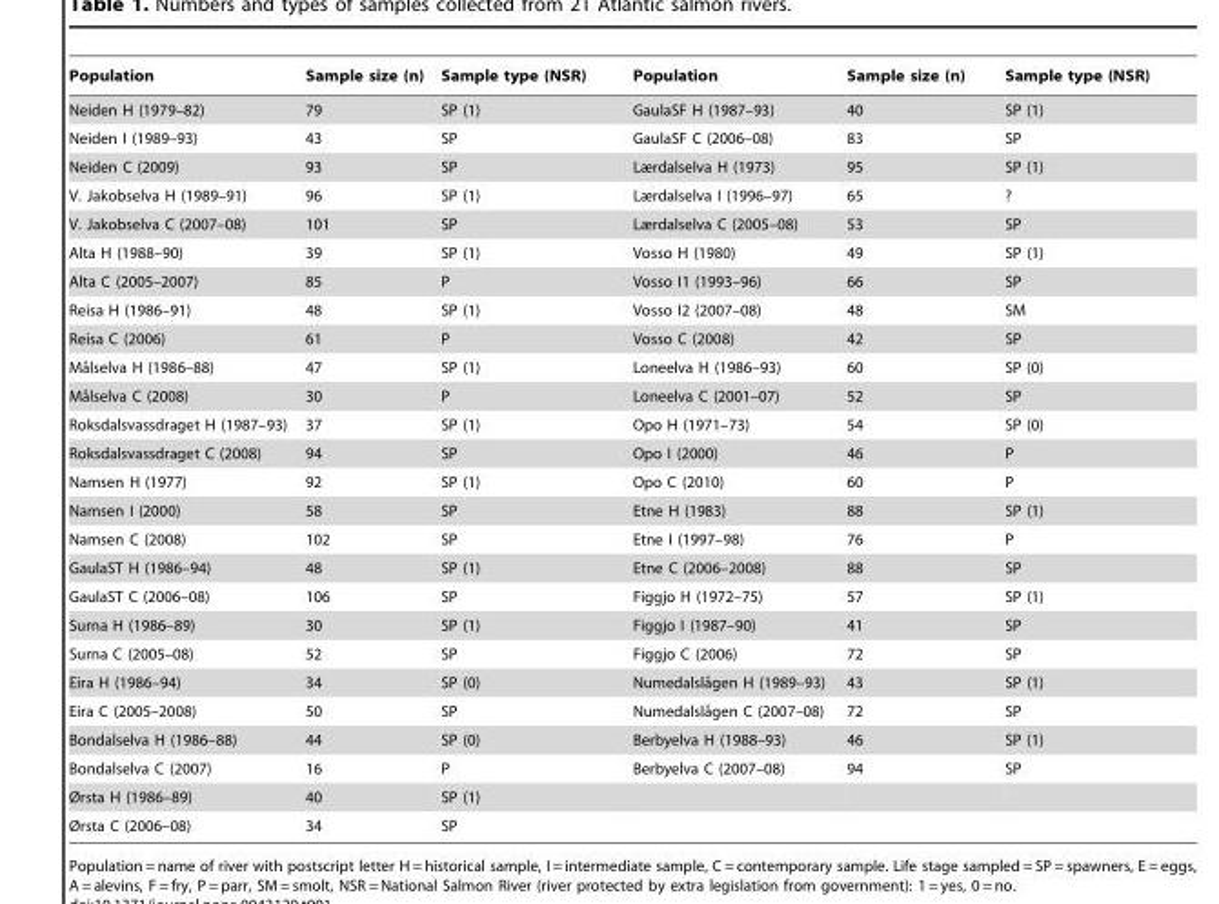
<table><thead><tr><td>Population</td><td>Sample size (n)</td><td>Sample type (NSR)</td><td>Population</td><td>Sample size (n)</td><td>Sample type (NSR)</td></tr></thead><tbody><tr><td>Neiden H (1979–82)</td><td>79</td><td>SP (1)</td><td>GaulaSF H (1987–93)</td><td>40</td><td>SP (1)</td></tr><tr><td>Neiden I (1989–93)</td><td>43</td><td>SP</td><td>GaulaSF C (2006–08)</td><td>83</td><td>SP</td></tr><tr><td>Neiden C (2009)</td><td>93</td><td>SP</td><td>Lærdalselva H (1973)</td><td>95</td><td>SP (1)</td></tr><tr><td>V. Jakobselva H (1989–91)</td><td>96</td><td>SP (1)</td><td>Lærdalselva I (1996–97)</td><td>65</td><td>?</td></tr><tr><td>V. Jakobselva C (2007–08)</td><td>101</td><td>SP</td><td>Lærdalselva C (2005–08)</td><td>53</td><td>SP</td></tr><tr><td>Alta H (1988–90)</td><td>39</td><td>SP (1)</td><td>Vosso H (1980)</td><td>49</td><td>SP (1)</td></tr><tr><td>Alta C (2005–2007)</td><td>85</td><td>P</td><td>Vosso I1 (1993–96)</td><td>66</td><td>SP</td></tr><tr><td>Reisa H (1986–91)</td><td>48</td><td>SP (1)</td><td>Vosso I2 (2007–08)</td><td>48</td><td>SM</td></tr><tr><td>Reisa C (2006)</td><td>61</td><td>P</td><td>Vosso C (2008)</td><td>42</td><td>SP</td></tr><tr><td>Ma˚lselva H (1986–88)</td><td>47</td><td>SP (1)</td><td>Loneelva H (1986–93)</td><td>60</td><td>SP (0)</td></tr><tr><td>Ma˚lselva C (2008)</td><td>30</td><td>P</td><td>Loneelva C (2001–07)</td><td>52</td><td>SP</td></tr><tr><td>Roksdalsvassdraget H (1987–93)</td><td>37</td><td>SP (1)</td><td>Opo H (1971–73)</td><td>54</td><td>SP (0)</td></tr><tr><td>Roksdalsvassdraget C (2008)</td><td>94</td><td>SP</td><td>Opo I (2000)</td><td>46</td><td>P</td></tr><tr><td>Namsen H (1977)</td><td>92</td><td>SP (1)</td><td>Opo C (2010)</td><td>60</td><td>P</td></tr><tr><td>Namsen I (2000)</td><td>58</td><td>SP</td><td>Etne H (1983)</td><td>88</td><td>SP (1)</td></tr><tr><td>Namsen C (2008)</td><td>102</td><td>SP</td><td>Etne I (1997–98)</td><td>76</td><td>P</td></tr><tr><td>GaulaST H (1986–94)</td><td>48</td><td>SP (1)</td><td>Etne C (2006–2008)</td><td>88</td><td>SP</td></tr><tr><td>GaulaST C (2006–08)</td><td>106</td><td>SP</td><td>Figgjo H (1972–75)</td><td>57</td><td>SP (1)</td></tr><tr><td>Surna H (1986–89)</td><td>30</td><td>SP (1)</td><td>Figgjo I (1987–90)</td><td>41</td><td>SP</td></tr><tr><td>Surna C (2005–08)</td><td>52</td><td>SP</td><td>Figgjo C (2006)</td><td>72</td><td>SP</td></tr><tr><td>Eira H (1986–94)</td><td>34</td><td>SP (0)</td><td>Numedalsla˚gen H (1989–93)</td><td>43</td><td>SP (1)</td></tr><tr><td>Eira C (2005–2008)</td><td>50</td><td>SP</td><td>Numedalsla˚gen C (2007–08)</td><td>72</td><td>SP</td></tr><tr><td>Bondalselva H (1986–88)</td><td>44</td><td>SP (0)</td><td>Berbyelva H (1988–93)</td><td>46</td><td>SP (1)</td></tr><tr><td>Bondalselva C (2007)</td><td>16</td><td>P</td><td>Berbyelva C (2007–08)</td><td>94</td><td>SP</td></tr><tr><td>Ørsta H (1986–89)</td><td>40</td><td>SP (1)</td><td></td><td></td><td></td></tr><tr><td>Ørsta C (2006–08)</td><td>34</td><td>SP</td><td></td><td></td><td></td></tr></tbody></table>